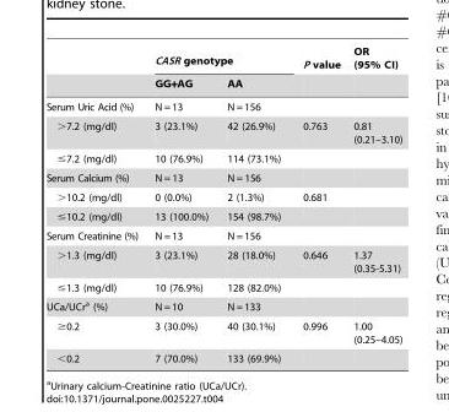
<table><thead><tr><td rowspan="2"></td><td colspan="2">CASR genotype</td><td rowspan="2">P value</td><td rowspan="2">OR (95% CI)</td></tr><tr><td>GG+AG</td><td>AA</td></tr></thead><tbody><tr><td>Serum Uric Acid (%)</td><td>N = 13</td><td>N = 156</td><td></td><td></td></tr><tr><td>&gt;7.2 (mg/dl)</td><td>3 (23.1%)</td><td>42 (26.9%)</td><td>0.763</td><td>0.81 (0.21–3.10)</td></tr><tr><td>≤7.2 (mg/dl)</td><td>10 (76.9%)</td><td>114 (73.1%)</td><td></td><td></td></tr><tr><td>Serum Calcium (%)</td><td>N = 13</td><td>N = 156</td><td></td><td></td></tr><tr><td>&gt;10.2 (mg/dl)</td><td>0 (0.0%)</td><td>2 (1.3%)</td><td>0.681</td><td></td></tr><tr><td>≤10.2 (mg/dl)</td><td>13 (100.0%)</td><td>154 (98.7%)</td><td></td><td></td></tr><tr><td>Serum Creatinine (%)</td><td>N = 13</td><td>N = 156</td><td></td><td></td></tr><tr><td>&gt;1.3 (mg/dl)</td><td>3 (23.1%)</td><td>28 (18.0%)</td><td>0.646</td><td>1.37 (0.35-5.31)</td></tr><tr><td>≤1.3 (mg/dl)</td><td>10 (76.9%)</td><td>128 (82.0%)</td><td></td><td></td></tr><tr><td>UCa/UCr<sup>a</sup> (%)</td><td>N = 10</td><td>N = 133</td><td></td><td></td></tr><tr><td>≥0.2</td><td>3 (30.0%)</td><td>40 (30.1%)</td><td>0.996</td><td>1.00 (0.25–4.05)</td></tr><tr><td>&lt;0.2</td><td>7 (70.0%)</td><td>133 (69.9%)</td><td></td><td></td></tr></tbody></table>